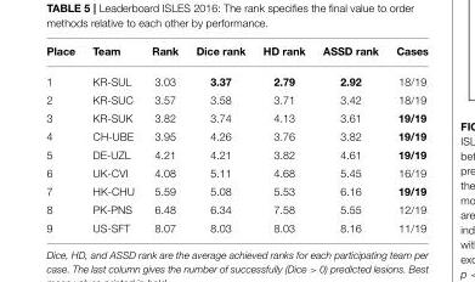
<table><thead><tr><td>Place</td><td>Team</td><td>Rank</td><td>Dice rank</td><td>HD rank</td><td>ASSD rank</td><td>Cases</td></tr></thead><tbody><tr><td>1</td><td>KR-SUL</td><td>3.03</td><td>3.37</td><td>2.79</td><td>2.92</td><td>18/19</td></tr><tr><td>2</td><td>KR-SUC</td><td>3.57</td><td>3.58</td><td>3.71</td><td>3.42</td><td>18/19</td></tr><tr><td>3</td><td>KR-SUK</td><td>3.82</td><td>3.74</td><td>4.13</td><td>3.61</td><td>19/19</td></tr><tr><td>4</td><td>CH-UBE</td><td>3.95</td><td>4.26</td><td>3.76</td><td>3.82</td><td>19/19</td></tr><tr><td>5</td><td>DE-UZL</td><td>4.21</td><td>4.21</td><td>3.82</td><td>4.61</td><td>19/19</td></tr><tr><td>6</td><td>UK-CVI</td><td>4.08</td><td>5.11</td><td>4.68</td><td>5.45</td><td>16/19</td></tr><tr><td>7</td><td>HK-CHU</td><td>5.59</td><td>5.08</td><td>5.53</td><td>6.16</td><td>19/19</td></tr><tr><td>8</td><td>PK-PNS</td><td>6.48</td><td>6.34</td><td>7.58</td><td>5.55</td><td>12/19</td></tr><tr><td>9</td><td>US-SFT</td><td>8.07</td><td>8.03</td><td>8.03</td><td>8.16</td><td>11/19</td></tr></tbody></table>